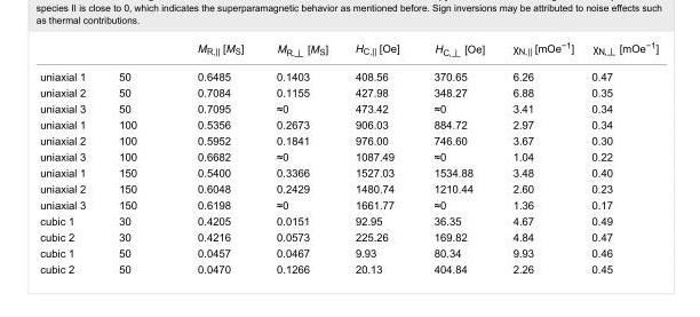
<table><thead><tr><td></td><td></td><td>M<sub>R,||</sub> [M<sub>S</sub>]</td><td>[M<sub>S</sub>]</td><td>H<sub>C,||</sub> [Oe]</td><td>[Oe]</td><td>χ<sub>N,||</sub> [mOe<sup>−1</sup>]</td><td>[mOe<sup>−1</sup>]</td></tr></thead><tbody><tr><td>uniaxial 1</td><td>50</td><td>0.6485</td><td>0.1403</td><td>408.56</td><td>370.65</td><td>6.26</td><td>0.47</td></tr><tr><td>uniaxial 2</td><td>50</td><td>0.7084</td><td>0.1155</td><td>427.98</td><td>348.27</td><td>6.88</td><td>0.35</td></tr><tr><td>uniaxial 3</td><td>50</td><td>0.7095</td><td>≈0</td><td>473.42</td><td>≈0</td><td>3.41</td><td>0.34</td></tr><tr><td>uniaxial 1</td><td>100</td><td>0.5356</td><td>0.2673</td><td>906.03</td><td>884.72</td><td>2.97</td><td>0.34</td></tr><tr><td>uniaxial 2</td><td>100</td><td>0.5952</td><td>0.1841</td><td>976.00</td><td>746.60</td><td>3.67</td><td>0.30</td></tr><tr><td>uniaxial 3</td><td>100</td><td>0.6682</td><td>≈0</td><td>1087.49</td><td>≈0</td><td>1.04</td><td>0.22</td></tr><tr><td>uniaxial 1</td><td>150</td><td>0.5400</td><td>0.3366</td><td>1527.03</td><td>1534.88</td><td>3.48</td><td>0.40</td></tr><tr><td>uniaxial 2</td><td>150</td><td>0.6048</td><td>0.2429</td><td>1480.74</td><td>1210.44</td><td>2.60</td><td>0.23</td></tr><tr><td>uniaxial 3</td><td>150</td><td>0.6198</td><td>≈0</td><td>1661.77</td><td>≈0</td><td>1.36</td><td>0.17</td></tr><tr><td>cubic 1</td><td>30</td><td>0.4205</td><td>0.0151</td><td>92.95</td><td>36.35</td><td>4.67</td><td>0.49</td></tr><tr><td>cubic 2</td><td>30</td><td>0.4216</td><td>0.0573</td><td>225.26</td><td>169.82</td><td>4.84</td><td>0.47</td></tr><tr><td>cubic 1</td><td>50</td><td>0.0457</td><td>0.0467</td><td>9.93</td><td>80.34</td><td>9.93</td><td>0.46</td></tr><tr><td>cubic 2</td><td>50</td><td>0.0470</td><td>0.1266</td><td>20.13</td><td>404.84</td><td>2.26</td><td>0.45</td></tr></tbody></table>